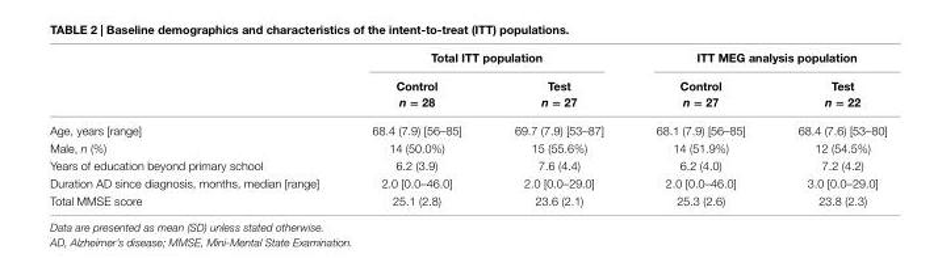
<table><thead><tr><td rowspan="2"></td><td colspan="2">Total iTT population</td><td colspan="2">iTT Meg analysis population</td></tr><tr><td>control n = 28</td><td>Test n = 27</td><td>control n = 27</td><td>Test n = 22</td></tr></thead><tbody><tr><td>Age, years [range]</td><td>68.4 (7.9) [56–85]</td><td>69.7 (7.9) [53–87]</td><td>68.1 (7.9) [56–85]</td><td>68.4 (7.6) [53–80]</td></tr><tr><td>Male, n (%)</td><td>14 (50.0%)</td><td>15 (55.6%)</td><td>14 (51.9%)</td><td>12 (54.5%)</td></tr><tr><td>Years of education beyond primary school</td><td>6.2 (3.9)</td><td>7.6 (4.4)</td><td>6.2 (4.0)</td><td>7.2 (4.2)</td></tr><tr><td>Duration AD since diagnosis, months, median [range]</td><td>2.0 [0.0–46.0]</td><td>2.0 [0.0–29.0]</td><td>2.0 [0.0–46.0]</td><td>3.0 [0.0–29.0]</td></tr><tr><td>Total MMSE score</td><td>25.1 (2.8)</td><td>23.6 (2.1)</td><td>25.3 (2.6)</td><td>23.8 (2.3)</td></tr></tbody></table>